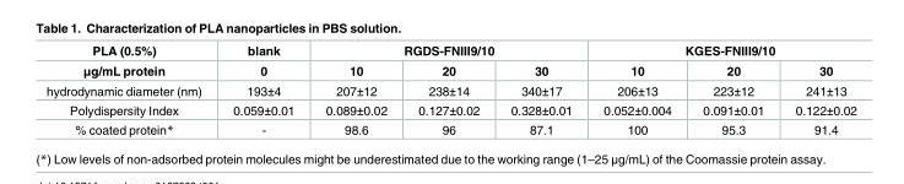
<table><thead><tr><td rowspan="2">PLA (0.5%) μg/mL protein</td><td rowspan="2">blank 0</td><td colspan="3">RGDS-FNIII9/10</td><td colspan="3">KGES-FNIII9/10</td></tr><tr><td>10</td><td>20</td><td>30</td><td>10</td><td>20</td><td>30</td></tr></thead><tbody><tr><td>hydrodynamic diameter (nm)</td><td>193±4</td><td>207±12</td><td>238±14</td><td>340±17</td><td>206±13</td><td>223±12</td><td>241±13</td></tr><tr><td>Polydispersity Index</td><td>0.059±0.01</td><td>0.089±0.02</td><td>0.127±0.02</td><td>0.328±0.01</td><td>0.052±0.004</td><td>0.091±0.01</td><td>0.122±0.02</td></tr><tr><td>% coated protein*</td><td>-</td><td>98.6</td><td>96</td><td>87.1</td><td>100</td><td>95.3</td><td>91.4</td></tr></tbody></table>